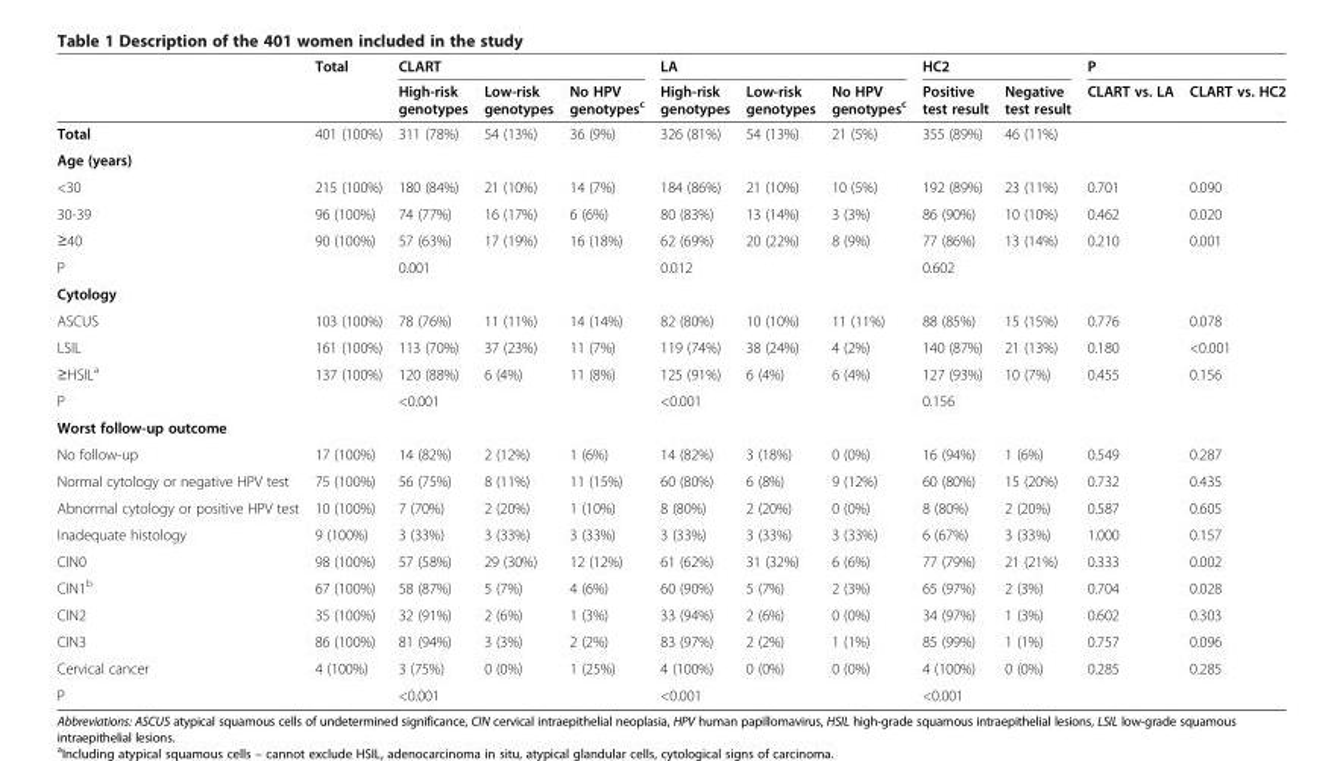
<table><thead><tr><td rowspan="2"></td><td rowspan="2">Total</td><td colspan="3">CLART</td><td colspan="3">LA</td><td colspan="2">HC2</td><td colspan="2">P</td></tr><tr><td>High-risk genotypes</td><td>Low-risk genotypes</td><td>No HPV genotypes<sup>c</sup></td><td>High-risk genotypes</td><td>Low-risk genotypes</td><td>No HPV genotypes<sup>c</sup></td><td>Positive test result</td><td>Negative test result</td><td>CLART vs. LA</td><td>CLART vs. HC2</td></tr></thead><tbody><tr><td>Total</td><td>401 (100%)</td><td>311 (78%)</td><td>54 (13%)</td><td>36 (9%)</td><td>326 (81%)</td><td>54 (13%)</td><td>21 (5%)</td><td>355 (89%)</td><td>46 (11%)</td><td></td><td></td></tr><tr><td colspan="12">Age (years)</td></tr><tr><td>&lt;30</td><td>215 (100%)</td><td>180 (84%)</td><td>21 (10%)</td><td>14 (7%)</td><td>184 (86%)</td><td>21 (10%)</td><td>10 (5%)</td><td>192 (89%)</td><td>23 (11%)</td><td>0.701</td><td>0.090</td></tr><tr><td>30-39</td><td>96 (100%)</td><td>74 (77%)</td><td>16 (17%)</td><td>6 (6%)</td><td>80 (83%)</td><td>13 (14%)</td><td>3 (3%)</td><td>86 (90%)</td><td>10 (10%)</td><td>0.462</td><td>0.020</td></tr><tr><td>≥40</td><td>90 (100%)</td><td>57 (63%)</td><td>17 (19%)</td><td>16 (18%)</td><td>62 (69%)</td><td>20 (22%)</td><td>8 (9%)</td><td>77 (86%)</td><td>13 (14%)</td><td>0.210</td><td>0.001</td></tr><tr><td>P</td><td></td><td colspan="3">0.001</td><td colspan="3">0.012</td><td colspan="2">0.602</td><td></td><td></td></tr><tr><td colspan="12">Cytology</td></tr><tr><td>ASCUS</td><td>103 (100%)</td><td>78 (76%)</td><td>11 (11%)</td><td>14 (14%)</td><td>82 (80%)</td><td>10 (10%)</td><td>11 (11%)</td><td>88 (85%)</td><td>15 (15%)</td><td>0.776</td><td>0.078</td></tr><tr><td>LSIL</td><td>161 (100%)</td><td>113 (70%)</td><td>37 (23%)</td><td>11 (7%)</td><td>119 (74%)</td><td>38 (24%)</td><td>4 (2%)</td><td>140 (87%)</td><td>21 (13%)</td><td>0.180</td><td>&lt;0.001</td></tr><tr><td>≥HSIL<sup>a</sup></td><td>137 (100%)</td><td>120 (88%)</td><td>6 (4%)</td><td>11 (8%)</td><td>125 (91%)</td><td>6 (4%)</td><td>6 (4%)</td><td>127 (93%)</td><td>10 (7%)</td><td>0.455</td><td>0.156</td></tr><tr><td>P</td><td></td><td colspan="3">&lt;0.001</td><td colspan="3">&lt;0.001</td><td colspan="2">0.156</td><td></td><td></td></tr><tr><td colspan="12">Worst follow-up outcome</td></tr><tr><td>No follow-up</td><td>17 (100%)</td><td>14 (82%)</td><td>2 (12%)</td><td>1 (6%)</td><td>14 (82%)</td><td>3 (18%)</td><td>0 (0%)</td><td>16 (94%)</td><td>1 (6%)</td><td>0.549</td><td>0.287</td></tr><tr><td>Normal cytology or negative HPV test</td><td>75 (100%)</td><td>56 (75%)</td><td>8 (11%)</td><td>11 (15%)</td><td>60 (80%)</td><td>6 (8%)</td><td>9 (12%)</td><td>60 (80%)</td><td>15 (20%)</td><td>0.732</td><td>0.435</td></tr><tr><td>Abnormal cytology or positive HPV test</td><td>10 (100%)</td><td>7 (70%)</td><td>2 (20%)</td><td>1 (10%)</td><td>8 (80%)</td><td>2 (20%)</td><td>0 (0%)</td><td>8 (80%)</td><td>2 (20%)</td><td>0.587</td><td>0.605</td></tr><tr><td>Inadequate histology</td><td>9 (100%)</td><td>3 (33%)</td><td>3 (33%)</td><td>3 (33%)</td><td>3 (33%)</td><td>3 (33%)</td><td>3 (33%)</td><td>6 (67%)</td><td>3 (33%)</td><td>1.000</td><td>0.157</td></tr><tr><td>CIN0</td><td>98 (100%)</td><td>57 (58%)</td><td>29 (30%)</td><td>12 (12%)</td><td>61 (62%)</td><td>31 (32%)</td><td>6 (6%)</td><td>77 (79%)</td><td>21 (21%)</td><td>0.333</td><td>0.002</td></tr><tr><td>CIN1<sup>b</sup></td><td>67 (100%)</td><td>58 (87%)</td><td>5 (7%)</td><td>4 (6%)</td><td>60 (90%)</td><td>5 (7%)</td><td>2 (3%)</td><td>65 (97%)</td><td>2 (3%)</td><td>0.704</td><td>0.028</td></tr><tr><td>CIN2</td><td>35 (100%)</td><td>32 (91%)</td><td>2 (6%)</td><td>1 (3%)</td><td>33 (94%)</td><td>2 (6%)</td><td>0 (0%)</td><td>34 (97%)</td><td>1 (3%)</td><td>0.602</td><td>0.303</td></tr><tr><td>CIN3</td><td>86 (100%)</td><td>81 (94%)</td><td>3 (3%)</td><td>2 (2%)</td><td>83 (97%)</td><td>2 (2%)</td><td>1 (1%)</td><td>85 (99%)</td><td>1 (1%)</td><td>0.757</td><td>0.096</td></tr><tr><td>Cervical cancer</td><td>4 (100%)</td><td>3 (75%)</td><td>0 (0%)</td><td>1 (25%)</td><td>4 (100%)</td><td>0 (0%)</td><td>0 (0%)</td><td>4 (100%)</td><td>0 (0%)</td><td>0.285</td><td>0.285</td></tr><tr><td>P</td><td></td><td colspan="3">&lt;0.001</td><td colspan="3">&lt;0.001</td><td colspan="2">&lt;0.001</td><td></td><td></td></tr></tbody></table>